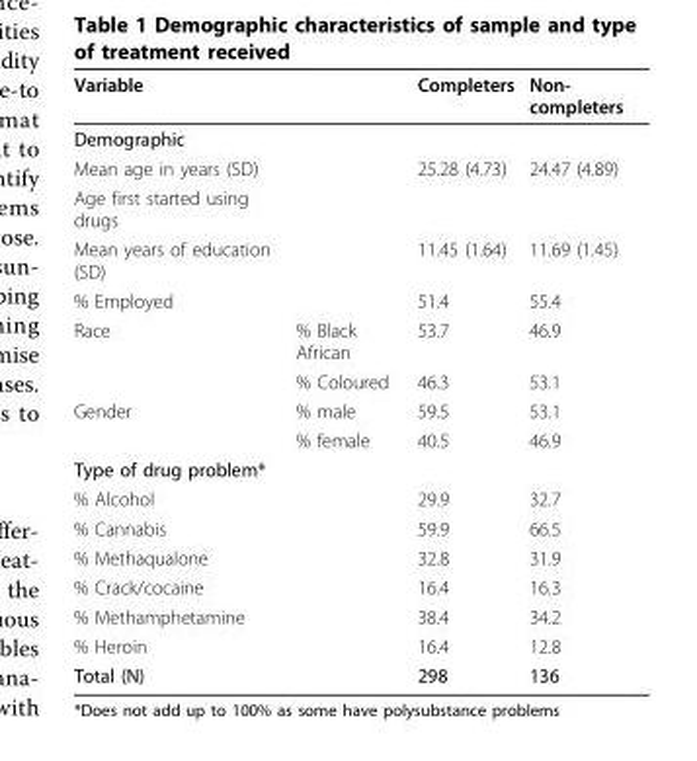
<table><thead><tr><td>Variable</td><td></td><td>Completers</td><td>Non- completers</td></tr></thead><tbody><tr><td colspan="4">Demographic</td></tr><tr><td>Mean age in years (SD)</td><td></td><td>25.28 (4.73)</td><td>24.47 (4.89)</td></tr><tr><td colspan="4">Age first started using drugs</td></tr><tr><td>Mean years of education (SD)</td><td></td><td>11.45 (1.64)</td><td>11.69 (1.45)</td></tr><tr><td>% Employed</td><td></td><td>51.4</td><td>55.4</td></tr><tr><td rowspan="2">Race</td><td>% Black African</td><td>53.7</td><td>46.9</td></tr><tr><td>% Coloured</td><td>46.3</td><td>53.1</td></tr><tr><td rowspan="2">Gender</td><td>% male</td><td>59.5</td><td>53.1</td></tr><tr><td>% female</td><td>40.5</td><td>46.9</td></tr><tr><td colspan="4">Type of drug problem*</td></tr><tr><td>% Alcohol</td><td></td><td>29.9</td><td>32.7</td></tr><tr><td>% Cannabis</td><td></td><td>59.9</td><td>66.5</td></tr><tr><td>% Methaqualone</td><td></td><td>32.8</td><td>31.9</td></tr><tr><td>% Crack/cocaine</td><td></td><td>16.4</td><td>16.3</td></tr><tr><td>% Methamphetamine</td><td></td><td>38.4</td><td>34.2</td></tr><tr><td>% Heroin</td><td></td><td>16.4</td><td>12.8</td></tr><tr><td>Total (N)</td><td></td><td>298</td><td>136</td></tr></tbody></table>